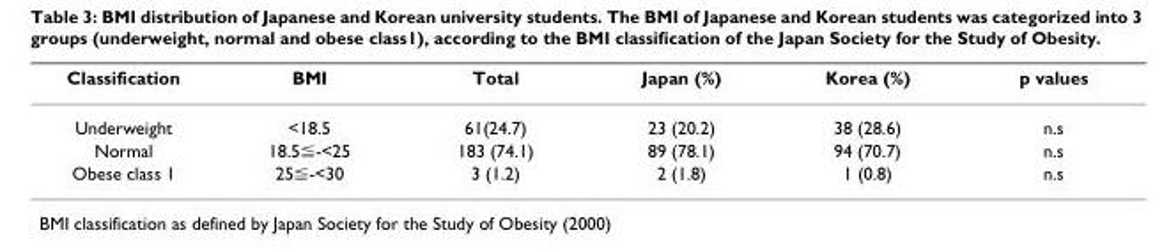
<table><thead><tr><td>Classification</td><td>BMI</td><td>Total</td><td>Japan (%)</td><td>Korea (%)</td><td>p values</td></tr></thead><tbody><tr><td>Underweight</td><td>&lt;18.5</td><td>61(24.7)</td><td>23 (20.2)</td><td>38 (28.6)</td><td>n.s</td></tr><tr><td>Normal</td><td>18.5≦-&lt;25</td><td>183 (74.1)</td><td>89 (78.1)</td><td>94 (70.7)</td><td>n.s</td></tr><tr><td>Obese class 1</td><td>25≦-&lt;30</td><td>3 (1.2)</td><td>2 (1.8)</td><td>1 (0.8)</td><td>n.s</td></tr></tbody></table>